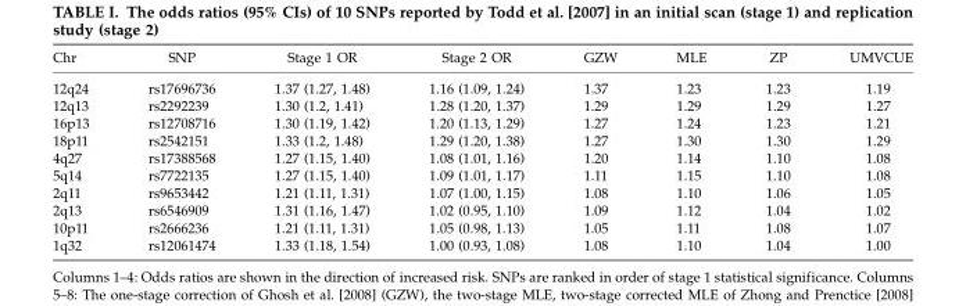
<table><thead><tr><td>Chr</td><td>SNP</td><td>Stage 1 OR</td><td>Stage 2 OR</td><td>GZW</td><td>MLE</td><td>ZP</td><td>UMVCUE</td></tr></thead><tbody><tr><td>12q24</td><td>rs17696736</td><td>1.37 (1.27, 1.48)</td><td>1.16 (1.09, 1.24)</td><td>1.37</td><td>1.23</td><td>1.23</td><td>1.19</td></tr><tr><td>12q13</td><td>rs2292239</td><td>1.30 (1.2, 1.41)</td><td>1.28 (1.20, 1.37)</td><td>1.29</td><td>1.29</td><td>1.29</td><td>1.27</td></tr><tr><td>16p13</td><td>rs12708716</td><td>1.30 (1.19, 1.42)</td><td>1.20 (1.13, 1.29)</td><td>1.27</td><td>1.24</td><td>1.23</td><td>1.21</td></tr><tr><td>18p11</td><td>rs2542151</td><td>1.33 (1.2, 1.48)</td><td>1.29 (1.20, 1.38)</td><td>1.27</td><td>1.30</td><td>1.30</td><td>1.29</td></tr><tr><td>4q27</td><td>rs17388568</td><td>1.27 (1.15, 1.40)</td><td>1.08 (1.01, 1.16)</td><td>1.20</td><td>1.14</td><td>1.10</td><td>1.08</td></tr><tr><td>5q14</td><td>rs7722135</td><td>1.27 (1.15, 1.40)</td><td>1.09 (1.01, 1.17)</td><td>1.11</td><td>1.15</td><td>1.10</td><td>1.08</td></tr><tr><td>2q11</td><td>rs9653442</td><td>1.21 (1.11, 1.31)</td><td>1.07 (1.00, 1.15)</td><td>1.08</td><td>1.10</td><td>1.06</td><td>1.05</td></tr><tr><td>2q13</td><td>rs6546909</td><td>1.31 (1.16, 1.47)</td><td>1.02 (0.95, 1.10)</td><td>1.09</td><td>1.12</td><td>1.04</td><td>1.02</td></tr><tr><td>10p11</td><td>rs2666236</td><td>1.21 (1.11, 1.31)</td><td>1.05 (0.98, 1.13)</td><td>1.05</td><td>1.11</td><td>1.08</td><td>1.07</td></tr><tr><td>1q32</td><td>rs12061474</td><td>1.33 (1.18, 1.54)</td><td>1.00 (0.93, 1.08)</td><td>1.08</td><td>1.10</td><td>1.04</td><td>1.00</td></tr></tbody></table>